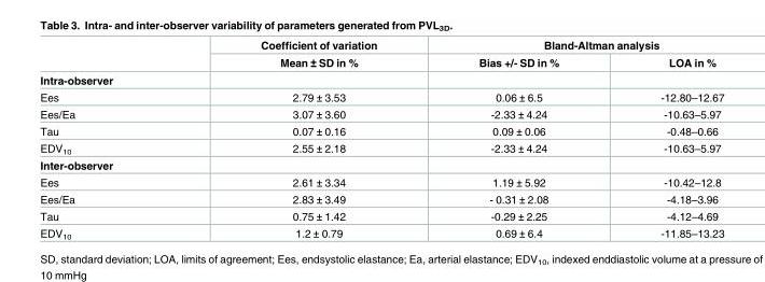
<table><thead><tr><td rowspan="2"></td><td rowspan="2">Coefficient of variation Mean ± SD in %</td><td colspan="2">Bland-Altman analysis</td></tr><tr><td>Bias +/- SD in %</td><td>LOA in %</td></tr></thead><tbody><tr><td colspan="4">Intra-observer</td></tr><tr><td>Ees</td><td>2.79 ± 3.53</td><td>0.06 ± 6.5</td><td>-12.80–12.67</td></tr><tr><td>Ees/Ea</td><td>3.07 ± 3.60</td><td>-2.33 ± 4.24</td><td>-10.63–5.97</td></tr><tr><td>Tau</td><td>0.07 ± 0.16</td><td>0.09 ± 0.06</td><td>-0.48–0.66</td></tr><tr><td>EDV<sub>10</sub></td><td>2.55 ± 2.18</td><td>-2.33 ± 4.24</td><td>-10.63–5.97</td></tr><tr><td colspan="4">Inter-observer</td></tr><tr><td>Ees</td><td>2.61 ± 3.34</td><td>1.19 ± 5.92</td><td>-10.42–12.8</td></tr><tr><td>Ees/Ea</td><td>2.83 ± 3.49</td><td>- 0.31 ± 2.08</td><td>-4.18–3.96</td></tr><tr><td>Tau</td><td>0.75 ± 1.42</td><td>-0.29 ± 2.25</td><td>-4.12–4.69</td></tr><tr><td>EDV<sub>10</sub></td><td>1.2 ± 0.79</td><td>0.69 ± 6.4</td><td>-11.85–13.23</td></tr></tbody></table>